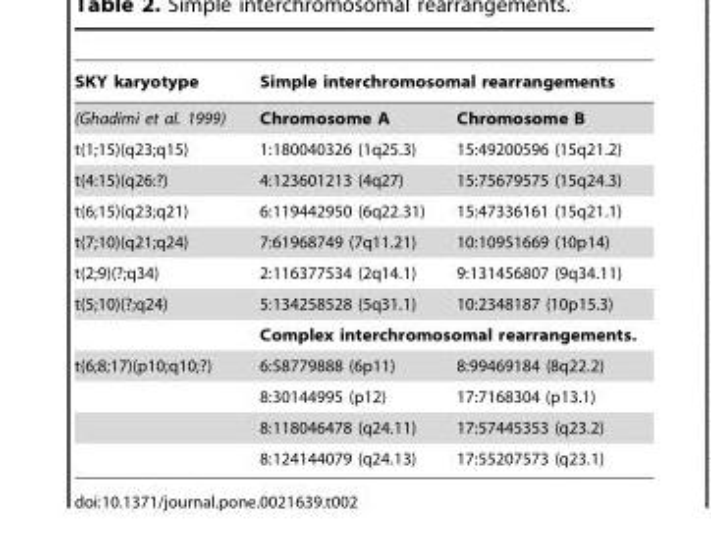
<table><thead><tr><td rowspan="2">SKY karyotype (Ghadimi et al. 1999)</td><td colspan="2">Simple interchromosomal rearrangements</td></tr><tr><td>Chromosome A</td><td>Chromosome B</td></tr></thead><tbody><tr><td>t(1;15)(q23;q15)</td><td>1:180040326 (1q25.3)</td><td>15:49200596 (15q21.2)</td></tr><tr><td>t(4:15)(q26:?)</td><td>4:123601213 (4q27)</td><td>15:75679575 (15q24.3)</td></tr><tr><td>t(6;15)(q23;q21)</td><td>6:119442950 (6q22.31)</td><td>15:47336161 (15q21.1)</td></tr><tr><td>t(7;10)(q21;q24)</td><td>7:61968749 (7q11.21)</td><td>10:10951669 (10p14)</td></tr><tr><td>t(2;9)(?;q34)</td><td>2:116377534 (2q14.1)</td><td>9:131456807 (9q34.11)</td></tr><tr><td rowspan="2">t(5;10)(?;q24)</td><td>5:134258528 (5q31.1)</td><td>10:2348187 (10p15.3)</td></tr><tr><td colspan="2">Complex interchromosomal rearrangements.</td></tr><tr><td rowspan="4">t(6;8;17)(p10;q10;?)</td><td>6:58779888 (6p11)</td><td>8:99469184 (8q22.2)</td></tr><tr><td>8:30144995 (p12)</td><td>17:7168304 (p13.1)</td></tr><tr><td>8:118046478 (q24.11)</td><td>17:57445353 (q23.2)</td></tr><tr><td>8:124144079 (q24.13)</td><td>17:55207573 (q23.1)</td></tr></tbody></table>